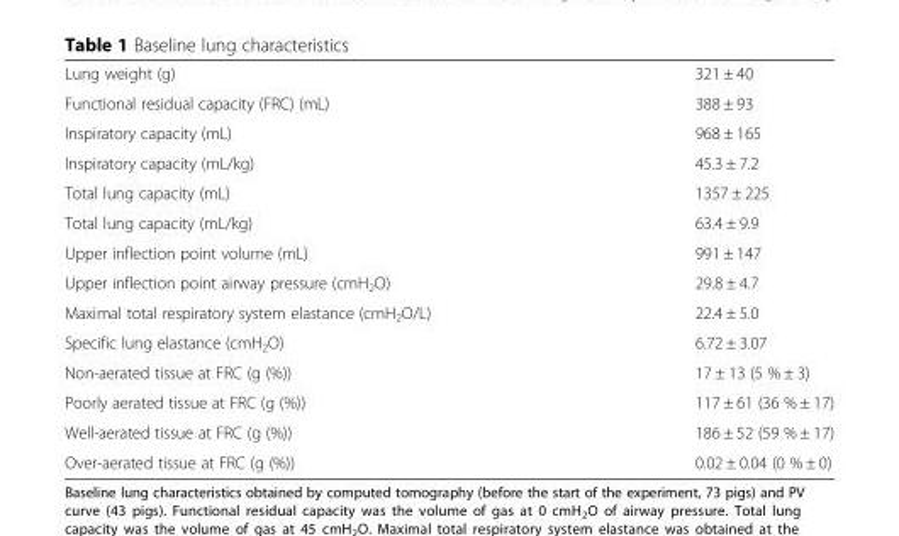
<table><tbody><tr><td>Lung weight (g)</td><td>321 ± 40</td></tr><tr><td>Functional residual capacity (FRC) (mL)</td><td>388 ± 93</td></tr><tr><td>Inspiratory capacity (mL)</td><td>968 ± 165</td></tr><tr><td>Inspiratory capacity (mL/kg)</td><td>45.3 ± 7.2</td></tr><tr><td>Total lung capacity (mL)</td><td>1357 ± 225</td></tr><tr><td>Total lung capacity (mL/kg)</td><td>63.4 ± 9.9</td></tr><tr><td>Upper inflection point volume (mL)</td><td>991 ± 147</td></tr><tr><td>Upper inflection point airway pressure (cmH<sub>2</sub>O)</td><td>29.8 ± 4.7</td></tr><tr><td>Maximal total respiratory system elastance (cmH<sub>2</sub>O/L)</td><td>22.4 ± 5.0</td></tr><tr><td>Specific lung elastance (cmH<sub>2</sub>O)</td><td>6.72 ± 3.07</td></tr><tr><td>Non-aerated tissue at FRC (g (%))</td><td>17 ± 13 (5 % ± 3)</td></tr><tr><td>Poorly aerated tissue at FRC (g (%))</td><td>117 ± 61 (36 % ± 17)</td></tr><tr><td>Well-aerated tissue at FRC (g (%))</td><td>186 ± 52 (59 % ± 17)</td></tr><tr><td>Over-aerated tissue at FRC (g (%))</td><td>0.02 ± 0.04 (0 % ± 0)</td></tr></tbody></table>